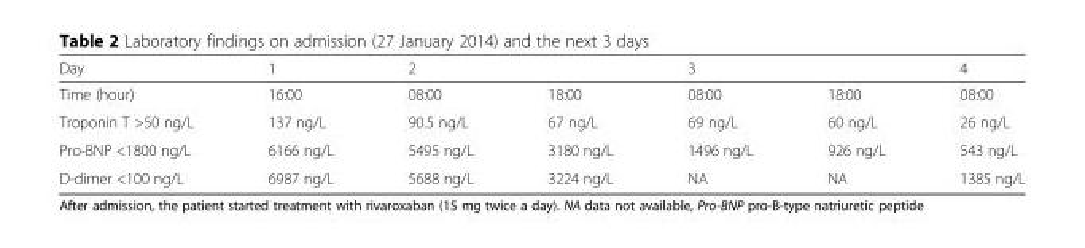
<table><thead><tr><td rowspan="2">Day Time (hour)</td><td rowspan="2">1 16:00</td><td colspan="2">2</td><td colspan="2">3</td><td rowspan="2">4 08:00</td></tr><tr><td>08:00</td><td>18:00</td><td>08:00</td><td>18:00</td></tr></thead><tbody><tr><td>Troponin T &gt;50 ng/L</td><td>137 ng/L</td><td>90.5 ng/L</td><td>67 ng/L</td><td>69 ng/L</td><td>60 ng/L</td><td>26 ng/L</td></tr><tr><td>Pro-BNP &lt;1800 ng/L</td><td>6166 ng/L</td><td>5495 ng/L</td><td>3180 ng/L</td><td>1496 ng/L</td><td>926 ng/L</td><td>543 ng/L</td></tr><tr><td>D-dimer &lt;100 ng/L</td><td>6987 ng/L</td><td>5688 ng/L</td><td>3224 ng/L</td><td>NA</td><td>NA</td><td>1385 ng/L</td></tr></tbody></table>